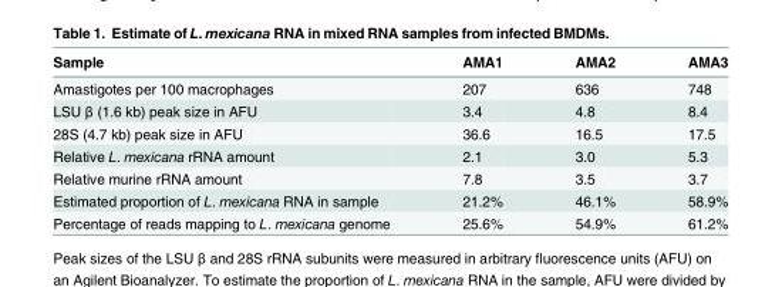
<table><thead><tr><td>Sample</td><td>AMA1</td><td>AMA2</td><td>AMA3</td></tr></thead><tbody><tr><td>Amastigotes per 100 macrophages</td><td>207</td><td>636</td><td>748</td></tr><tr><td>LSU β (1.6 kb) peak size in AFU</td><td>3.4</td><td>4.8</td><td>8.4</td></tr><tr><td>28S (4.7 kb) peak size in AFU</td><td>36.6</td><td>16.5</td><td>17.5</td></tr><tr><td>Relative L. mexicana rRNA amount</td><td>2.1</td><td>3.0</td><td>5.3</td></tr><tr><td>Relative murine rRNA amount</td><td>7.8</td><td>3.5</td><td>3.7</td></tr><tr><td>Estimated proportion of L. mexicana RNA in sample</td><td>21.2%</td><td>46.1%</td><td>58.9%</td></tr><tr><td>Percentage of reads mapping to L. mexicana genome</td><td>25.6%</td><td>54.9%</td><td>61.2%</td></tr></tbody></table>